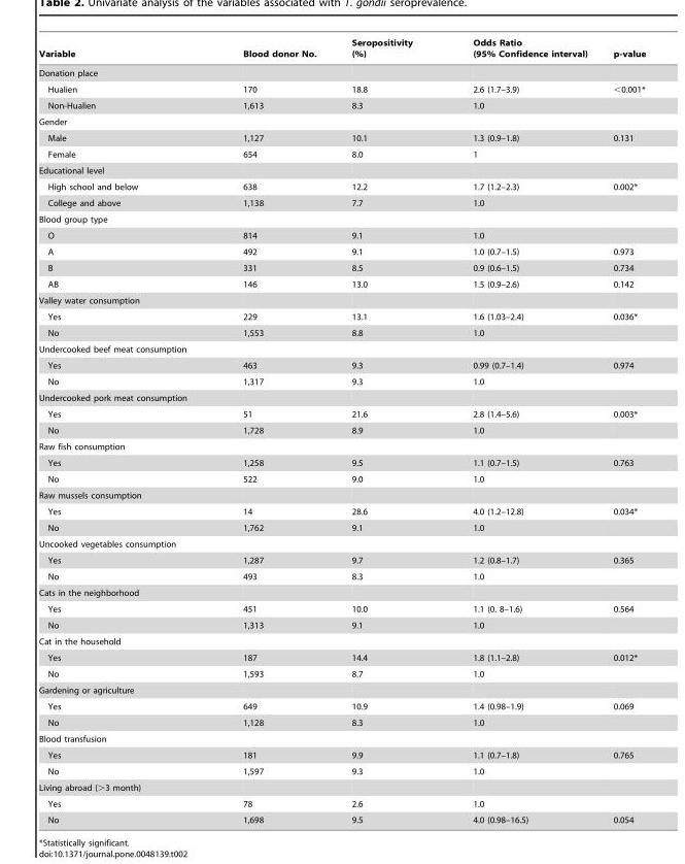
<table><thead><tr><td>Variable</td><td>Blood donor No.</td><td>Seropositivity (%)</td><td>Odds Ratio (95% Confidence interval)</td><td>p-value</td></tr></thead><tbody><tr><td colspan="5">Donation place</td></tr><tr><td>Hualien</td><td>170</td><td>18.8</td><td>2.6 (1.7–3.9)</td><td>&lt;0.001*</td></tr><tr><td>Non-Hualien</td><td>1,613</td><td>8.3</td><td>1.0</td><td></td></tr><tr><td colspan="5">Gender</td></tr><tr><td>Male</td><td>1,127</td><td>10.1</td><td>1.3 (0.9–1.8)</td><td>0.131</td></tr><tr><td>Female</td><td>654</td><td>8.0</td><td>1</td><td></td></tr><tr><td colspan="5">Educational level</td></tr><tr><td>High school and below</td><td>638</td><td>12.2</td><td>1.7 (1.2–2.3)</td><td>0.002*</td></tr><tr><td>College and above</td><td>1,138</td><td>7.7</td><td>1.0</td><td></td></tr><tr><td colspan="5">Blood group type</td></tr><tr><td>O</td><td>814</td><td>9.1</td><td>1.0</td><td></td></tr><tr><td>A</td><td>492</td><td>9.1</td><td>1.0 (0.7–1.5)</td><td>0.973</td></tr><tr><td>B</td><td>331</td><td>8.5</td><td>0.9 (0.6–1.5)</td><td>0.734</td></tr><tr><td>AB</td><td>146</td><td>13.0</td><td>1.5 (0.9–2.6)</td><td>0.142</td></tr><tr><td colspan="5">Valley water consumption</td></tr><tr><td>Yes</td><td>229</td><td>13.1</td><td>1.6 (1.03–2.4)</td><td>0.036*</td></tr><tr><td>No</td><td>1,553</td><td>8.8</td><td>1.0</td><td></td></tr><tr><td colspan="5">Undercooked beef meat consumption</td></tr><tr><td>Yes</td><td>463</td><td>9.3</td><td>0.99 (0.7–1.4)</td><td>0.974</td></tr><tr><td>No</td><td>1,317</td><td>9.3</td><td>1.0</td><td></td></tr><tr><td colspan="5">Undercooked pork meat consumption</td></tr><tr><td>Yes</td><td>51</td><td>21.6</td><td>2.8 (1.4–5.6)</td><td>0.003*</td></tr><tr><td>No</td><td>1,728</td><td>8.9</td><td>1.0</td><td></td></tr><tr><td colspan="5">Raw fish consumption</td></tr><tr><td>Yes</td><td>1,258</td><td>9.5</td><td>1.1 (0.7–1.5)</td><td>0.763</td></tr><tr><td>No</td><td>522</td><td>9.0</td><td>1.0</td><td></td></tr><tr><td colspan="5">Raw mussels consumption</td></tr><tr><td>Yes</td><td>14</td><td>28.6</td><td>4.0 (1.2–12.8)</td><td>0.034*</td></tr><tr><td>No</td><td>1,762</td><td>9.1</td><td>1.0</td><td></td></tr><tr><td colspan="5">Uncooked vegetables consumption</td></tr><tr><td>Yes</td><td>1,287</td><td>9.7</td><td>1.2 (0.8–1.7)</td><td>0.365</td></tr><tr><td>No</td><td>493</td><td>8.3</td><td>1.0</td><td></td></tr><tr><td colspan="5">Cats in the neighborhood</td></tr><tr><td>Yes</td><td>451</td><td>10.0</td><td>1.1 (0. 8–1.6)</td><td>0.564</td></tr><tr><td>No</td><td>1,313</td><td>9.1</td><td>1.0</td><td></td></tr><tr><td colspan="5">Cat in the household</td></tr><tr><td>Yes</td><td>187</td><td>14.4</td><td>1.8 (1.1–2.8)</td><td>0.012*</td></tr><tr><td>No</td><td>1,593</td><td>8.7</td><td>1.0</td><td></td></tr><tr><td colspan="5">Gardening or agriculture</td></tr><tr><td>Yes</td><td>649</td><td>10.9</td><td>1.4 (0.98–1.9)</td><td>0.069</td></tr><tr><td>No</td><td>1,128</td><td>8.3</td><td>1.0</td><td></td></tr><tr><td colspan="5">Blood transfusion</td></tr><tr><td>Yes</td><td>181</td><td>9.9</td><td>1.1 (0.7–1.8)</td><td>0.765</td></tr><tr><td>No</td><td>1,597</td><td>9.3</td><td>1.0</td><td></td></tr><tr><td colspan="5">Living abroad (&gt;3 month)</td></tr><tr><td>Yes</td><td>78</td><td>2.6</td><td>1.0</td><td></td></tr><tr><td>No</td><td>1,698</td><td>9.5</td><td>4.0 (0.98–16.5)</td><td>0.054</td></tr></tbody></table>